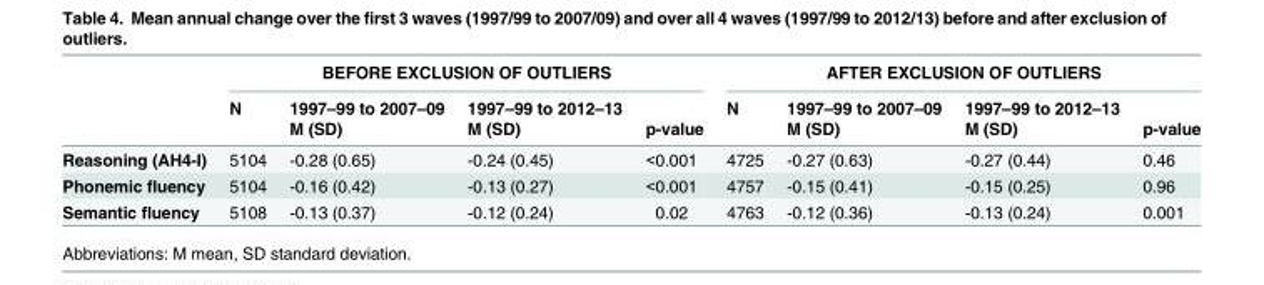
<table><thead><tr><td rowspan="3"></td><td colspan="4">BEFORE EXCLUSION OF OUTLIERS</td><td colspan="4">AFTER EXCLUSION OF OUTLIERS</td></tr><tr><td rowspan="2">N</td><td rowspan="2">1997–99 to 2007–09 M (SD)</td><td rowspan="2">1997–99 to 2012–13 M (SD)</td><td rowspan="2">p-value</td><td rowspan="2">N</td><td rowspan="2">1997–99 to 2007–09 M (SD)</td><td rowspan="2">1997–99 to 2012–13 M (SD)</td><td rowspan="2">p-value</td></tr><tr></tr></thead><tbody><tr><td>Reasoning (AH4-I)</td><td>5104</td><td>-0.28 (0.65)</td><td>-0.24 (0.45)</td><td>&lt;0.001</td><td>4725</td><td>-0.27 (0.63)</td><td>-0.27 (0.44)</td><td>0.46</td></tr><tr><td>Phonemic fluency</td><td>5104</td><td>-0.16 (0.42)</td><td>-0.13 (0.27)</td><td>&lt;0.001</td><td>4757</td><td>-0.15 (0.41)</td><td>-0.15 (0.25)</td><td>0.96</td></tr><tr><td>Semantic fluency</td><td>5108</td><td>-0.13 (0.37)</td><td>-0.12 (0.24)</td><td>0.02</td><td>4763</td><td>-0.12 (0.36)</td><td>-0.13 (0.24)</td><td>0.001</td></tr></tbody></table>